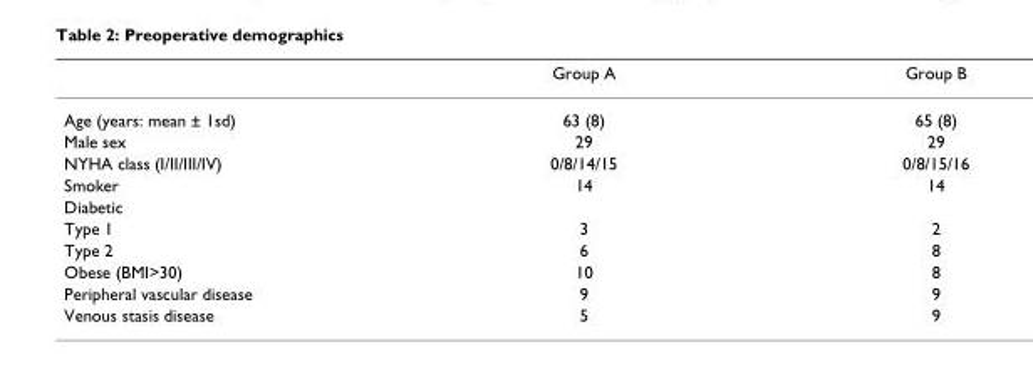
<table><thead><tr><td></td><td>Group A</td><td>Group B</td></tr></thead><tbody><tr><td>Age (years: mean ± 1sd)</td><td>63 (8)</td><td>65 (8)</td></tr><tr><td>Male sex</td><td>29</td><td>29</td></tr><tr><td>NYHA class (I/II/III/IV)</td><td>0/8/14/15</td><td>0/8/15/16</td></tr><tr><td>Smoker</td><td>14</td><td>14</td></tr><tr><td colspan="3">Diabetic</td></tr><tr><td>Type 1</td><td>3</td><td>2</td></tr><tr><td>Type 2</td><td>6</td><td>8</td></tr><tr><td>Obese (BMI&gt;30)</td><td>10</td><td>8</td></tr><tr><td>Peripheral vascular disease</td><td>9</td><td>9</td></tr><tr><td>Venous stasis disease</td><td>5</td><td>9</td></tr></tbody></table>